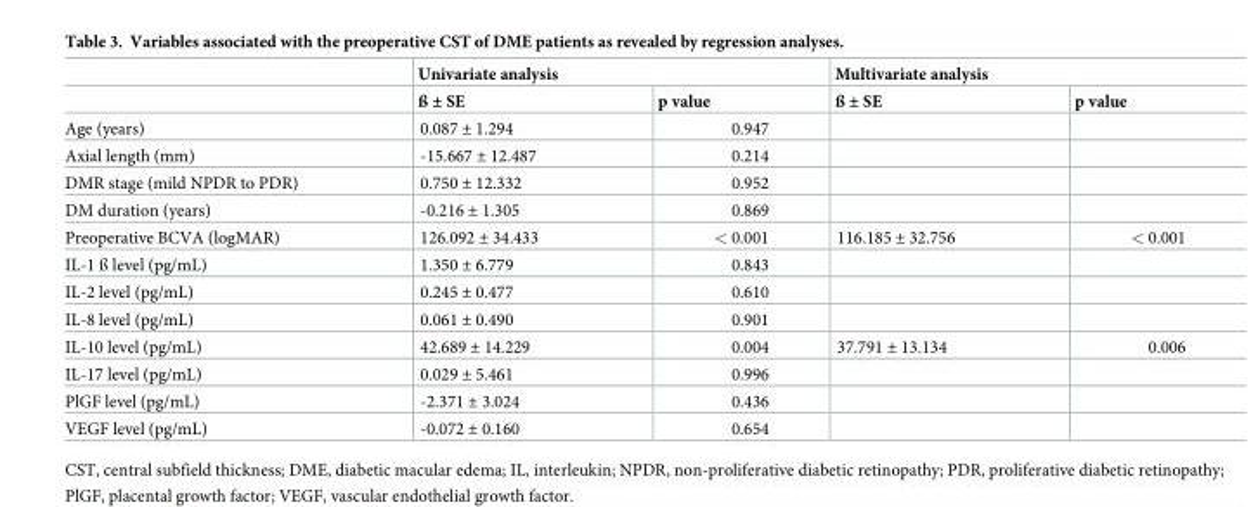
<table><thead><tr><td rowspan="2"></td><td colspan="2">Univariate analysis</td><td colspan="2">Multivariate analysis</td></tr><tr><td>ß ± SE</td><td>p value</td><td>ß ± SE</td><td>p value</td></tr></thead><tbody><tr><td>Age (years)</td><td>0.087 ± 1.294</td><td>0.947</td><td></td><td></td></tr><tr><td>Axial length (mm)</td><td>-15.667 ± 12.487</td><td>0.214</td><td></td><td></td></tr><tr><td>DMR stage (mild NPDR to PDR)</td><td>0.750 ± 12.332</td><td>0.952</td><td></td><td></td></tr><tr><td>DM duration (years)</td><td>-0.216 ± 1.305</td><td>0.869</td><td></td><td></td></tr><tr><td>Preoperative BCVA (logMAR)</td><td>126.092 ± 34.433</td><td>&lt; 0.001</td><td>116.185 ± 32.756</td><td>&lt; 0.001</td></tr><tr><td>IL-1 ß level (pg/mL)</td><td>1.350 ± 6.779</td><td>0.843</td><td></td><td></td></tr><tr><td>IL-2 level (pg/mL)</td><td>0.245 ± 0.477</td><td>0.610</td><td></td><td></td></tr><tr><td>IL-8 level (pg/mL)</td><td>0.061 ± 0.490</td><td>0.901</td><td></td><td></td></tr><tr><td>IL-10 level (pg/mL)</td><td>42.689 ± 14.229</td><td>0.004</td><td>37.791 ± 13.134</td><td>0.006</td></tr><tr><td>IL-17 level (pg/mL)</td><td>0.029 ± 5.461</td><td>0.996</td><td></td><td></td></tr><tr><td>PlGF level (pg/mL)</td><td>-2.371 ± 3.024</td><td>0.436</td><td></td><td></td></tr><tr><td>VEGF level (pg/mL)</td><td>-0.072 ± 0.160</td><td>0.654</td><td></td><td></td></tr></tbody></table>